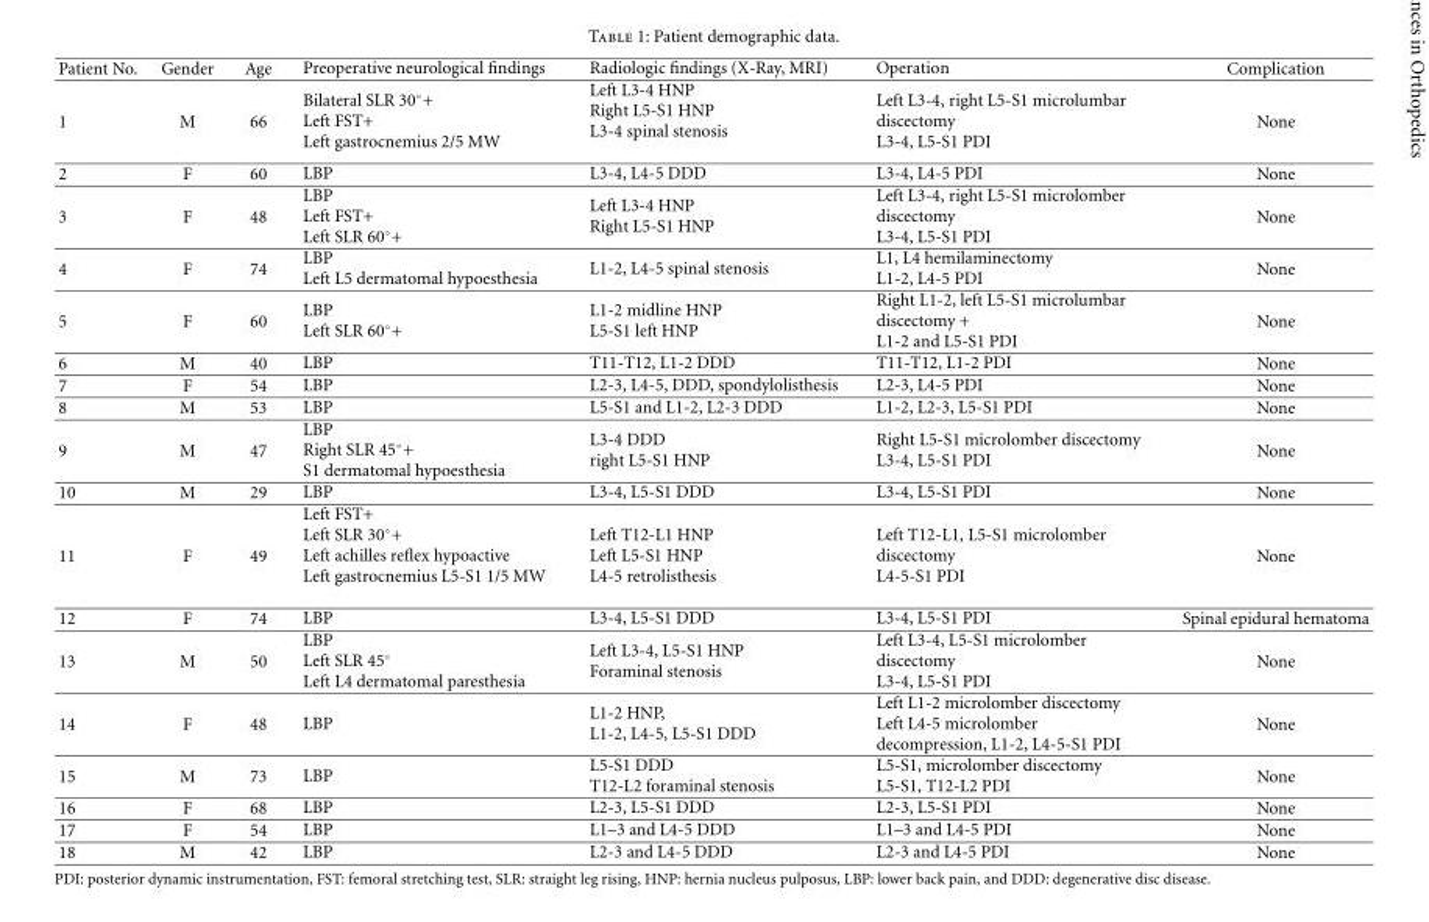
<table><thead><tr><td>Patient No.</td><td>Gender</td><td>Age</td><td>Preoperative neurological findings</td><td>Radiologic findings (X-Ray, MRI)</td><td>Operation</td><td>Complication</td></tr></thead><tbody><tr><td>1</td><td>M</td><td>66</td><td>Bilateral SLR 30◦+ Left FST+ Left gastrocnemius 2/5 MW</td><td>Left L3-4 HNP Right L5-S1 HNP L3-4 spinal stenosis</td><td>Left L3-4, right L5-S1 microlumbar discectomy L3-4, L5-S1 PDI</td><td>None</td></tr><tr><td>2</td><td>F</td><td>60</td><td>LBP</td><td>L3-4, L4-5 DDD</td><td>L3-4, L4-5 PDI</td><td>None</td></tr><tr><td>3</td><td>F</td><td>48</td><td>LBP Left FST+ Left SLR 60◦+</td><td>Left L3-4 HNP Right L5-S1 HNP</td><td>Left L3-4, right L5-S1 microlomber discectomy L3-4, L5-S1 PDI</td><td>None</td></tr><tr><td>4</td><td>F</td><td>74</td><td>LBP Left L5 dermatomal hypoesthesia</td><td>L1-2, L4-5 spinal stenosis</td><td>L1, L4 hemilaminectomy L1-2, L4-5 PDI</td><td>None</td></tr><tr><td>5</td><td>F</td><td>60</td><td>LBP Left SLR 60◦+</td><td>L1-2 midline HNP L5-S1 left HNP</td><td>Right L1-2, left L5-S1 microlumbar discectomy + L1-2 and L5-S1 PDI</td><td>None</td></tr><tr><td>6</td><td>M</td><td>40</td><td>LBP</td><td>T11-T12, L1-2 DDD</td><td>T11-T12, L1-2 PDI</td><td>None</td></tr><tr><td>7</td><td>F</td><td>54</td><td>LBP</td><td>L2-3, L4-5, DDD, spondylolisthesis</td><td>L2-3, L4-5 PDI</td><td>None</td></tr><tr><td>8</td><td>M</td><td>53</td><td>LBP</td><td>L5-S1 and L1-2, L2-3 DDD</td><td>L1-2, L2-3, L5-S1 PDI</td><td>None</td></tr><tr><td>9</td><td>M</td><td>47</td><td>LBP Right SLR 45◦+ S1 dermatomal hypoesthesia</td><td>L3-4 DDD right L5-S1 HNP</td><td>Right L5-S1 microlomber discectomy L3-4, L5-S1 PDI</td><td>None</td></tr><tr><td>10</td><td>M</td><td>29</td><td>LBP</td><td>L3-4, L5-S1 DDD</td><td>L3-4, L5-S1 PDI</td><td>None</td></tr><tr><td>11</td><td>F</td><td>49</td><td>Left FST+ Left SLR 30◦+ Left achilles reflex hypoactive Left gastrocnemius L5-S1 1/5 MW</td><td>Left T12-L1 HNP Left L5-S1 HNP L4-5 retrolisthesis</td><td>Left T12-L1, L5-S1 microlomber discectomy L4-5-S1 PDI</td><td>None</td></tr><tr><td>12</td><td>F</td><td>74</td><td>LBP</td><td>L3-4, L5-S1 DDD</td><td>L3-4, L5-S1 PDI</td><td>Spinal epidural hematoma</td></tr><tr><td>13</td><td>M</td><td>50</td><td>LBP Left SLR 45◦ Left L4 dermatomal paresthesia</td><td>Left L3-4, L5-S1 HNP Foraminal stenosis</td><td>Left L3-4, L5-S1 microlomber discectomy L3-4, L5-S1 PDI</td><td>None</td></tr><tr><td>14</td><td>F</td><td>48</td><td>LBP</td><td>L1-2 HNP, L1-2, L4-5, L5-S1 DDD</td><td>Left L1-2 microlomber discectomy Left L4-5 microlomber decompression, L1-2, L4-5-S1 PDI</td><td>None</td></tr><tr><td>15</td><td>M</td><td>73</td><td>LBP</td><td>L5-S1 DDD T12-L2 foraminal stenosis</td><td>L5-S1, microlomber discectomy L5-S1, T12-L2 PDI</td><td>None</td></tr><tr><td>16</td><td>F</td><td>68</td><td>LBP</td><td>L2-3, L5-S1 DDD</td><td>L2-3, L5-S1 PDI</td><td>None</td></tr><tr><td>17</td><td>F</td><td>54</td><td>LBP</td><td>L1–3 and L4-5 DDD</td><td>L1–3 and L4-5 PDI</td><td>None</td></tr><tr><td>18</td><td>M</td><td>42</td><td>LBP</td><td>L2-3 and L4-5 DDD</td><td>L2-3 and L4-5 PDI</td><td>None</td></tr></tbody></table>